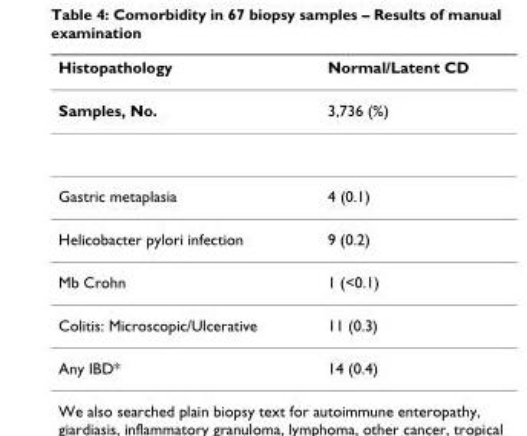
<table><thead><tr><td>Histopathology</td><td>Normal/Latent CD</td></tr></thead><tbody><tr><td>Samples, No.</td><td>3,736 (%)</td></tr><tr><td>Gastric metaplasia</td><td>4 (0.1)</td></tr><tr><td>Helicobacter pylori infection</td><td>9 (0.2)</td></tr><tr><td>Mb Crohn</td><td>1 (&lt;0.1)</td></tr><tr><td>Colitis: Microscopic/Ulcerative</td><td>11 (0.3)</td></tr><tr><td>Any IBD*</td><td>14 (0.4)</td></tr></tbody></table>